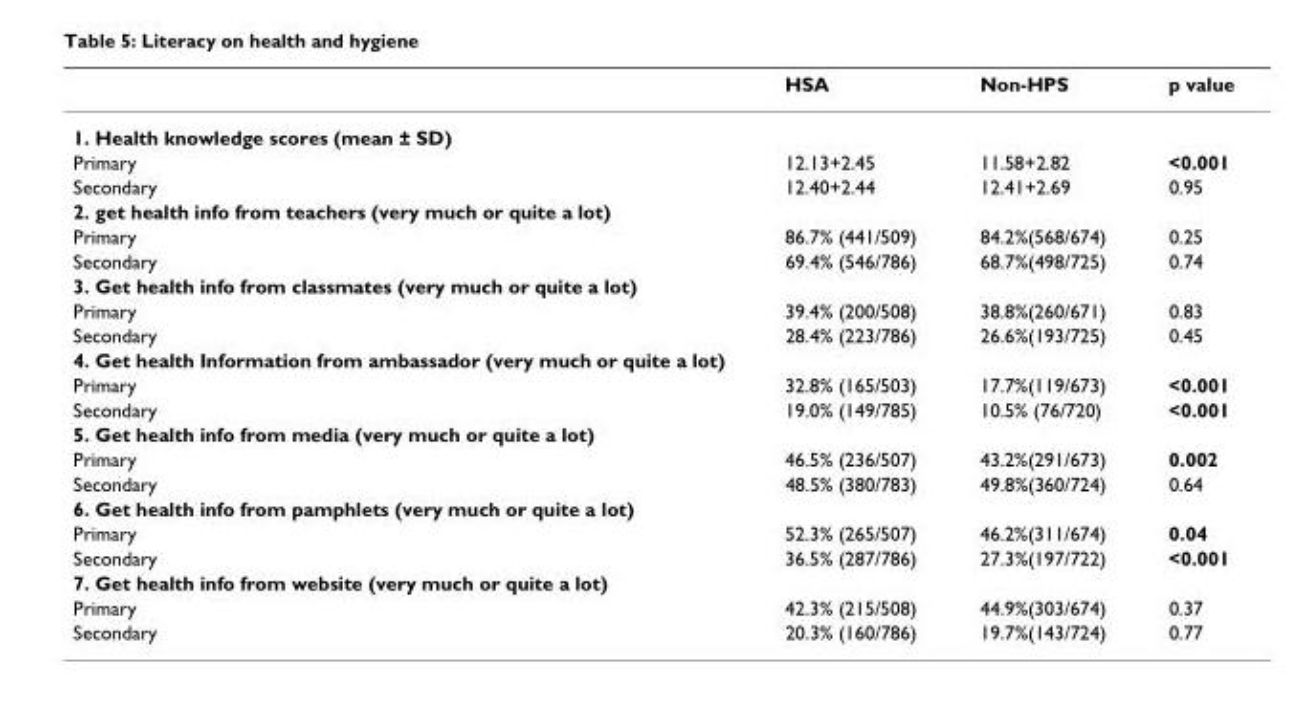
<table><thead><tr><td></td><td>HSA</td><td>Non-HPS</td><td>p value</td></tr></thead><tbody><tr><td colspan="4">1. Health knowledge scores (mean ± SD)</td></tr><tr><td>Primary</td><td>12.13+2.45</td><td>11.58+2.82</td><td>&lt;0.001</td></tr><tr><td>Secondary</td><td>12.40+2.44</td><td>12.41+2.69</td><td>0.95</td></tr><tr><td colspan="4">2. get health info from teachers (very much or quite a lot)</td></tr><tr><td>Primary</td><td>86.7% (441/509)</td><td>84.2%(568/674)</td><td>0.25</td></tr><tr><td>Secondary</td><td>69.4% (546/786)</td><td>68.7%(498/725)</td><td>0.74</td></tr><tr><td colspan="4">3. Get health info from classmates (very much or quite a lot)</td></tr><tr><td>Primary</td><td>39.4% (200/508)</td><td>38.8%(260/671)</td><td>0.83</td></tr><tr><td>Secondary</td><td>28.4% (223/786)</td><td>26.6%(193/725)</td><td>0.45</td></tr><tr><td colspan="4">4. Get health Information from ambassador (very much or quite a lot)</td></tr><tr><td>Primary</td><td>32.8% (165/503)</td><td>17.7%(119/673)</td><td>&lt;0.001</td></tr><tr><td>Secondary</td><td>19.0% (149/785)</td><td>10.5% (76/720)</td><td>&lt;0.001</td></tr><tr><td colspan="4">5. Get health info from media (very much or quite a lot)</td></tr><tr><td>Primary</td><td>46.5% (236/507)</td><td>43.2%(291/673)</td><td>0.002</td></tr><tr><td>Secondary</td><td>48.5% (380/783)</td><td>49.8%(360/724)</td><td>0.64</td></tr><tr><td colspan="4">6. Get health info from pamphlets (very much or quite a lot)</td></tr><tr><td>Primary</td><td>52.3% (265/507)</td><td>46.2%(311/674)</td><td>0.04</td></tr><tr><td>Secondary</td><td>36.5% (287/786)</td><td>27.3%(197/722)</td><td>&lt;0.001</td></tr><tr><td colspan="4">7. Get health info from website (very much or quite a lot)</td></tr><tr><td>Primary</td><td>42.3% (215/508)</td><td>44.9%(303/674)</td><td>0.37</td></tr><tr><td>Secondary</td><td>20.3% (160/786)</td><td>19.7%(143/724)</td><td>0.77</td></tr></tbody></table>